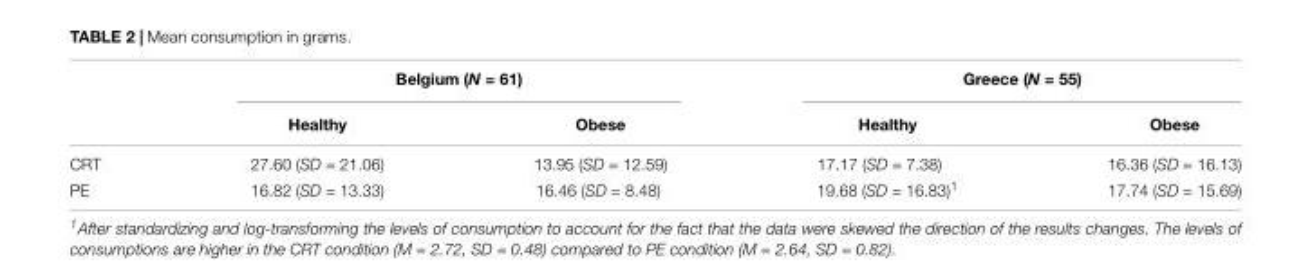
<table><thead><tr><td rowspan="2"></td><td colspan="2">Belgium (N = 61)</td><td colspan="2">Greece (N = 55)</td></tr><tr><td>Healthy</td><td>Obese</td><td>Healthy</td><td>Obese</td></tr></thead><tbody><tr><td>CRT</td><td>27.60 (SD = 21.06)</td><td>13.95 (SD = 12.59)</td><td>17.17 (SD = 7.38)</td><td>16.36 (SD = 16.13)</td></tr><tr><td>PE</td><td>16.82 (SD = 13.33)</td><td>16.46 (SD = 8.48)</td><td>19.68 (SD = 16.83)<sup>1</sup></td><td>17.74 (SD = 15.69)</td></tr></tbody></table>